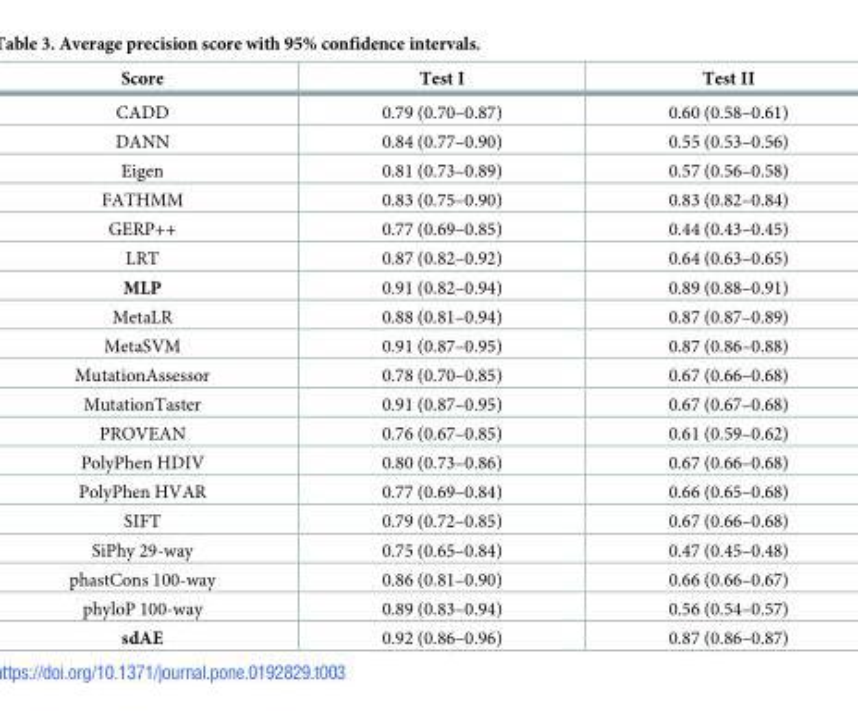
<table><thead><tr><td>Score</td><td>Test I</td><td>Test II</td></tr></thead><tbody><tr><td>CADD</td><td>0.79 (0.70–0.87)</td><td>0.60 (0.58–0.61)</td></tr><tr><td>DANN</td><td>0.84 (0.77–0.90)</td><td>0.55 (0.53–0.56)</td></tr><tr><td>Eigen</td><td>0.81 (0.73–0.89)</td><td>0.57 (0.56–0.58)</td></tr><tr><td>FATHMM</td><td>0.83 (0.75–0.90)</td><td>0.83 (0.82–0.84)</td></tr><tr><td>GERP++</td><td>0.77 (0.69–0.85)</td><td>0.44 (0.43–0.45)</td></tr><tr><td>LRT</td><td>0.87 (0.82–0.92)</td><td>0.64 (0.63–0.65)</td></tr><tr><td>MLP</td><td>0.91 (0.82–0.94)</td><td>0.89 (0.88–0.91)</td></tr><tr><td>MetaLR</td><td>0.88 (0.81–0.94)</td><td>0.87 (0.87–0.89)</td></tr><tr><td>MetaSVM</td><td>0.91 (0.87–0.95)</td><td>0.87 (0.86–0.88)</td></tr><tr><td>MutationAssessor</td><td>0.78 (0.70–0.85)</td><td>0.67 (0.66–0.68)</td></tr><tr><td>MutationTaster</td><td>0.91 (0.87–0.95)</td><td>0.67 (0.67–0.68)</td></tr><tr><td>PROVEAN</td><td>0.76 (0.67–0.85)</td><td>0.61 (0.59–0.62)</td></tr><tr><td>PolyPhen HDIV</td><td>0.80 (0.73–0.86)</td><td>0.67 (0.66–0.68)</td></tr><tr><td>PolyPhen HVAR</td><td>0.77 (0.69–0.84)</td><td>0.66 (0.65–0.68)</td></tr><tr><td>SIFT</td><td>0.79 (0.72–0.85)</td><td>0.67 (0.66–0.68)</td></tr><tr><td>SiPhy 29-way</td><td>0.75 (0.65–0.84)</td><td>0.47 (0.45–0.48)</td></tr><tr><td>phastCons 100-way</td><td>0.86 (0.81–0.90)</td><td>0.66 (0.66–0.67)</td></tr><tr><td>phyloP 100-way</td><td>0.89 (0.83–0.94)</td><td>0.56 (0.54–0.57)</td></tr><tr><td>sdAE</td><td>0.92 (0.86–0.96)</td><td>0.87 (0.86–0.87)</td></tr></tbody></table>